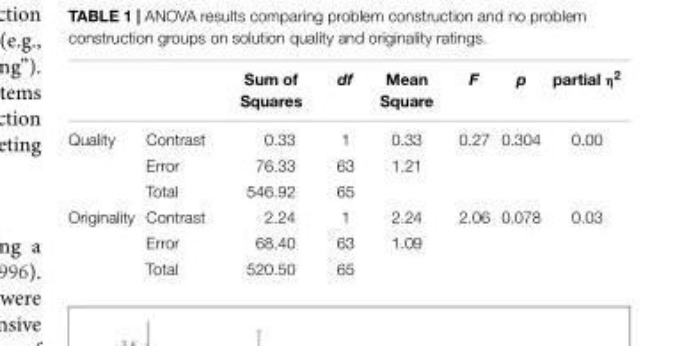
<table><thead><tr><td></td><td></td><td>Sum of Squares</td><td>df</td><td>Mean Square</td><td>F</td><td>p</td><td>partial η<sup>2</sup></td></tr></thead><tbody><tr><td rowspan="3">Quality</td><td>Contrast</td><td>0.33</td><td>1</td><td>0.33</td><td>0.27</td><td>0.304</td><td>0.00</td></tr><tr><td>Error</td><td>76.33</td><td>63</td><td>1.21</td><td></td><td></td><td></td></tr><tr><td>Total</td><td>546.92</td><td>65</td><td></td><td></td><td></td><td></td></tr><tr><td rowspan="3">Originality</td><td>Contrast</td><td>2.24</td><td>1</td><td>2.24</td><td>2.06</td><td>0.078</td><td>0.03</td></tr><tr><td>Error</td><td>68.40</td><td>63</td><td>1.09</td><td></td><td></td><td></td></tr><tr><td>Total</td><td>520.50</td><td>65</td><td></td><td></td><td></td><td></td></tr></tbody></table>